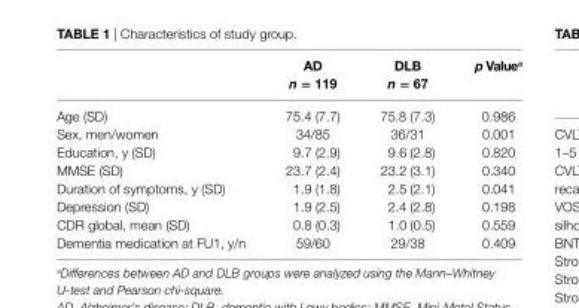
<table><thead><tr><td></td><td>aD n = 119</td><td>DlB n = 67</td><td>p Value<sup>a</sup></td></tr></thead><tbody><tr><td>Age (SD)</td><td>75.4 (7.7)</td><td>75.8 (7.3)</td><td>0.986</td></tr><tr><td>Sex, men/women</td><td>34/85</td><td>36/31</td><td>0.001</td></tr><tr><td>Education, y (SD)</td><td>9.7 (2.9)</td><td>9.6 (2.8)</td><td>0.820</td></tr><tr><td>MMSE (SD)</td><td>23.7 (2.4)</td><td>23.2 (3.1)</td><td>0.340</td></tr><tr><td>Duration of symptoms, y (SD)</td><td>1.9 (1.8)</td><td>2.5 (2.1)</td><td>0.041</td></tr><tr><td>Depression (SD)</td><td>1.9 (2.5)</td><td>2.4 (2.8)</td><td>0.198</td></tr><tr><td>CDR global, mean (SD)</td><td>0.8 (0.3)</td><td>1.0 (0.5)</td><td>0.559</td></tr><tr><td>Dementia medication at FU1, y/n</td><td>59/60</td><td>29/38</td><td>0.409</td></tr></tbody></table>